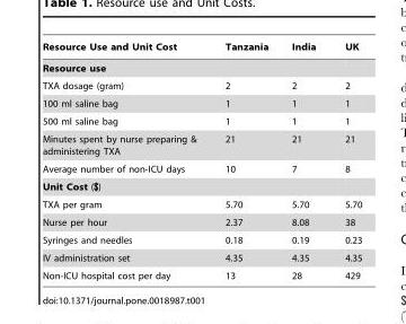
<table><thead><tr><td>Resource Use and Unit Cost</td><td>Tanzania</td><td>India</td><td>UK</td></tr></thead><tbody><tr><td colspan="4">Resource use</td></tr><tr><td>TXA dosage (gram)</td><td>2</td><td>2</td><td>2</td></tr><tr><td>100 ml saline bag</td><td>1</td><td>1</td><td>1</td></tr><tr><td>500 ml saline bag</td><td>1</td><td>1</td><td>1</td></tr><tr><td>Minutes spent by nurse preparing &amp; administering TXA</td><td>21</td><td>21</td><td>21</td></tr><tr><td>Average number of non-ICU days</td><td>10</td><td>7</td><td>8</td></tr><tr><td colspan="4">Unit Cost ($)</td></tr><tr><td>TXA per gram</td><td>5.70</td><td>5.70</td><td>5.70</td></tr><tr><td>Nurse per hour</td><td>2.37</td><td>8.08</td><td>38</td></tr><tr><td>Syringes and needles</td><td>0.18</td><td>0.19</td><td>0.23</td></tr><tr><td>IV administration set</td><td>4.35</td><td>4.35</td><td>4.35</td></tr><tr><td>Non-ICU hospital cost per day</td><td>13</td><td>28</td><td>429</td></tr></tbody></table>